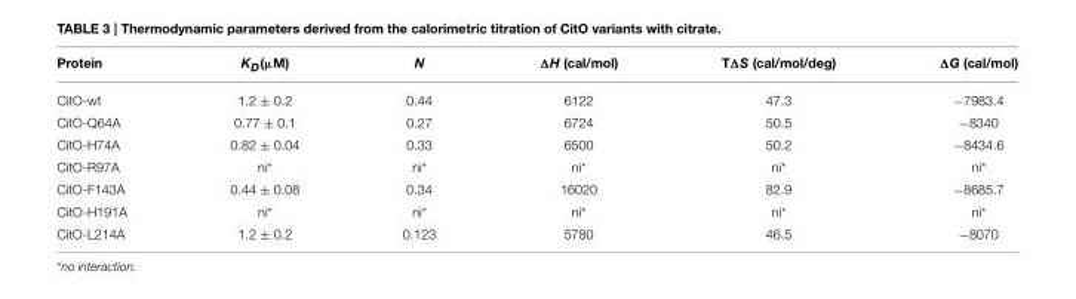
<table><thead><tr><td>Protein</td><td>KD(µM)</td><td>N</td><td>ΔH (cal/mol)</td><td>TΔS (cal/mol/deg)</td><td>ΔG (cal/mol)</td></tr></thead><tbody><tr><td>CitO-wt</td><td>1.2 ± 0.2</td><td>0.44</td><td>6122</td><td>47.3</td><td>−7983.4</td></tr><tr><td>CitO-Q64A</td><td>0.77 ± 0.1</td><td>0.27</td><td>6724</td><td>50.5</td><td>−8340</td></tr><tr><td>CitO-H74A</td><td>0.82 ± 0.04</td><td>0.33</td><td>6500</td><td>50.2</td><td>−8434.6</td></tr><tr><td>CitO-R97A</td><td>ni*</td><td>ni*</td><td>ni*</td><td>ni*</td><td>ni*</td></tr><tr><td>CitO-F143A</td><td>0.44 ± 0.08</td><td>0.34</td><td>16020</td><td>82.9</td><td>−8685.7</td></tr><tr><td>CitO-H191A</td><td>ni*</td><td>ni*</td><td>ni*</td><td>ni*</td><td>ni*</td></tr><tr><td>CitO-L214A</td><td>1.2 ± 0.2</td><td>0.123</td><td>5780</td><td>46.5</td><td>−8070</td></tr></tbody></table>